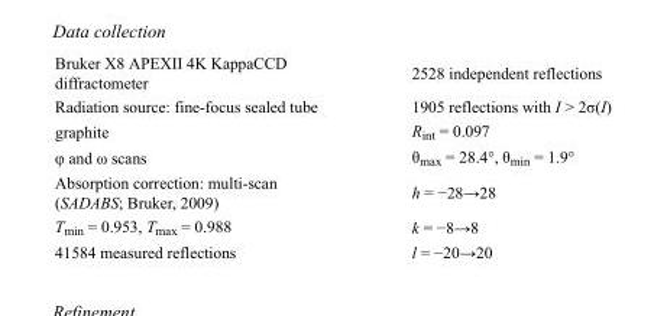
<table><tbody><tr><td>Bruker X8 APEXII 4K KappaCCD diffractometer</td><td>2528 independent reflections</td></tr><tr><td>Radiation source: fine-focus sealed tube</td><td>1905 reflections with I &gt; 2σ(I)</td></tr><tr><td>graphite</td><td>R<sub>int</sub> = 0.097</td></tr><tr><td>φ and ω scans</td><td>θ<sub>max</sub> = 28.4°, θ<sub>min</sub> = 1.9°</td></tr><tr><td>Absorption correction: multi-scan (SADABS; Bruker, 2009)</td><td>h = −28→28</td></tr><tr><td>T<sub>min</sub> = 0.953, T<sub>max</sub> = 0.988</td><td>k = −8→8</td></tr><tr><td>41584 measured reflections</td><td>l = −20→20</td></tr></tbody></table>